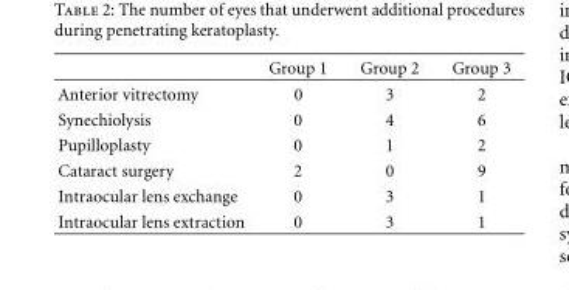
<table><thead><tr><td></td><td>Group 1</td><td>Group 2</td><td>Group 3</td></tr></thead><tbody><tr><td>Anterior vitrectomy</td><td>0</td><td>3</td><td>2</td></tr><tr><td>Synechiolysis</td><td>0</td><td>4</td><td>6</td></tr><tr><td>Pupilloplasty</td><td>0</td><td>1</td><td>2</td></tr><tr><td>Cataract surgery</td><td>2</td><td>0</td><td>9</td></tr><tr><td>Intraocular lens exchange</td><td>0</td><td>3</td><td>1</td></tr><tr><td>Intraocular lens extraction</td><td>0</td><td>3</td><td>1</td></tr></tbody></table>